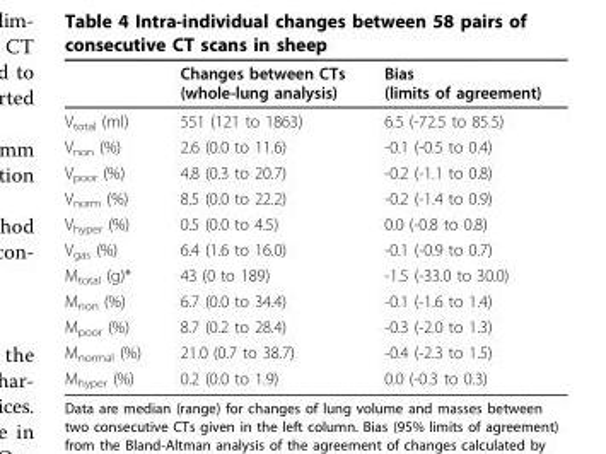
<table><thead><tr><td></td><td>Changes between CTs (whole-lung analysis)</td><td>Bias (limits of agreement)</td></tr></thead><tbody><tr><td>V<sub>total</sub> (ml)</td><td>551 (121 to 1863)</td><td>6.5 (-72.5 to 85.5)</td></tr><tr><td>V<sub>non</sub> (%)</td><td>2.6 (0.0 to 11.6)</td><td>-0.1 (-0.5 to 0.4)</td></tr><tr><td>V<sub>poor</sub> (%)</td><td>4.8 (0.3 to 20.7)</td><td>-0.2 (-1.1 to 0.8)</td></tr><tr><td>V<sub>norm</sub> (%)</td><td>8.5 (0.0 to 22.2)</td><td>-0.2 (-1.4 to 0.9)</td></tr><tr><td>V<sub>hyper</sub> (%)</td><td>0.5 (0.0 to 4.5)</td><td>0.0 (-0.8 to 0.8)</td></tr><tr><td>V<sub>gas</sub> (%)</td><td>6.4 (1.6 to 16.0)</td><td>-0.1 (-0.9 to 0.7)</td></tr><tr><td>M<sub>total</sub> (g)*</td><td>43 (0 to 189)</td><td>-1.5 (-33.0 to 30.0)</td></tr><tr><td>M<sub>non</sub> (%)</td><td>6.7 (0.0 to 34.4)</td><td>-0.1 (-1.6 to 1.4)</td></tr><tr><td>M<sub>poor</sub> (%)</td><td>8.7 (0.2 to 28.4)</td><td>-0.3 (-2.0 to 1.3)</td></tr><tr><td>M<sub>normal</sub> (%)</td><td>21.0 (0.7 to 38.7)</td><td>-0.4 (-2.3 to 1.5)</td></tr><tr><td>M<sub>hyper</sub> (%)</td><td>0.2 (0.0 to 1.9)</td><td>0.0 (-0.3 to 0.3)</td></tr></tbody></table>